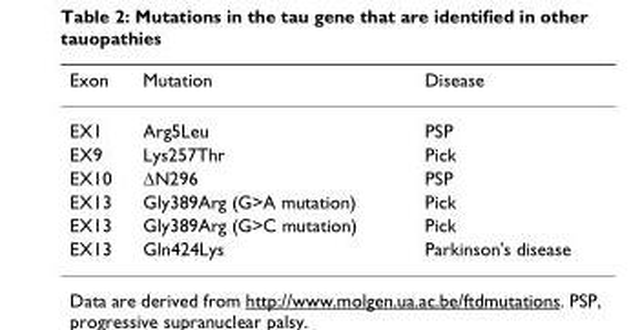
<table><thead><tr><td>Exon</td><td>Mutation</td><td>Disease</td></tr></thead><tbody><tr><td>EX1</td><td>Arg5Leu</td><td>PSP</td></tr><tr><td>EX9</td><td>Lys257Thr</td><td>Pick</td></tr><tr><td>EX10</td><td>ΔN296</td><td>PSP</td></tr><tr><td>EX13</td><td>Gly389Arg (G&gt;A mutation)</td><td>Pick</td></tr><tr><td>EX13</td><td>Gly389Arg (G&gt;C mutation)</td><td>Pick</td></tr><tr><td>EX13</td><td>Gln424Lys</td><td>Parkinson&#x27;s disease</td></tr></tbody></table>